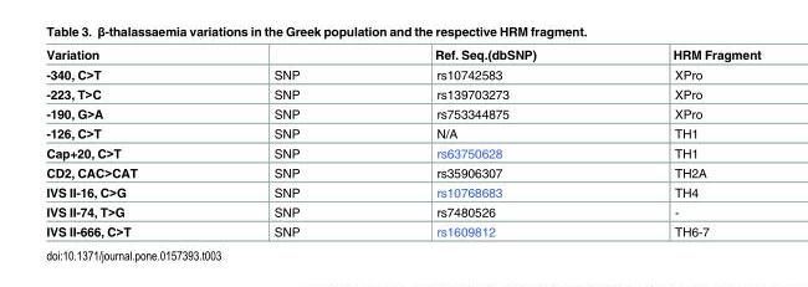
<table><thead><tr><td>Variation</td><td></td><td>Ref. Seq.(dbSNP)</td><td>HRM Fragment</td></tr></thead><tbody><tr><td>-340, C&gt;T</td><td>SNP</td><td>rs10742583</td><td>XPro</td></tr><tr><td>-223, T&gt;C</td><td>SNP</td><td>rs139703273</td><td>XPro</td></tr><tr><td>-190, G&gt;A</td><td>SNP</td><td>rs753344875</td><td>XPro</td></tr><tr><td>-126, C&gt;T</td><td>SNP</td><td>N/A</td><td>TH1</td></tr><tr><td>Cap+20, C&gt;T</td><td>SNP</td><td>rs63750628</td><td>TH1</td></tr><tr><td>CD2, CAC&gt;CAT</td><td>SNP</td><td>rs35906307</td><td>TH2A</td></tr><tr><td>IVS II-16, C&gt;G</td><td>SNP</td><td>rs10768683</td><td>TH4</td></tr><tr><td>IVS II-74, T&gt;G</td><td>SNP</td><td>rs7480526</td><td>-</td></tr><tr><td>IVS II-666, C&gt;T</td><td>SNP</td><td>rs1609812</td><td>TH6-7</td></tr></tbody></table>